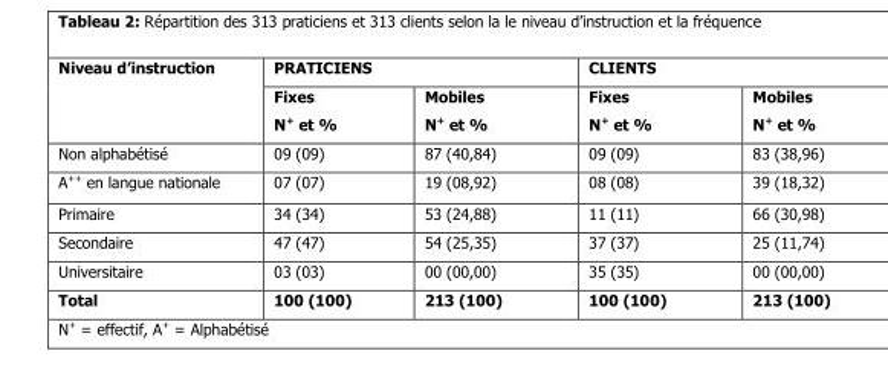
<table><thead><tr><td rowspan="2">Niveau d’instruction</td><td colspan="2">PRATICIENS</td><td colspan="2">CLIENTS</td></tr><tr><td>Fixes N<sup>+</sup> et %</td><td>Mobiles N<sup>+</sup> et %</td><td>Fixes N<sup>+</sup> et %</td><td>Mobiles N<sup>+</sup> et %</td></tr></thead><tbody><tr><td>Non alphabétisé</td><td>09 (09)</td><td>87 (40,84)</td><td>09 (09)</td><td>83 (38,96)</td></tr><tr><td>A<sup>++</sup> en langue nationale</td><td>07 (07)</td><td>19 (08,92)</td><td>08 (08)</td><td>39 (18,32)</td></tr><tr><td>Primaire</td><td>34 (34)</td><td>53 (24,88)</td><td>11 (11)</td><td>66 (30,98)</td></tr><tr><td>Secondaire</td><td>47 (47)</td><td>54 (25,35)</td><td>37 (37)</td><td>25 (11,74)</td></tr><tr><td>Universitaire</td><td>03 (03)</td><td>00 (00,00)</td><td>35 (35)</td><td>00 (00,00)</td></tr><tr><td>Total</td><td>100 (100)</td><td>213 (100)</td><td>100 (100)</td><td>213 (100)</td></tr></tbody></table>